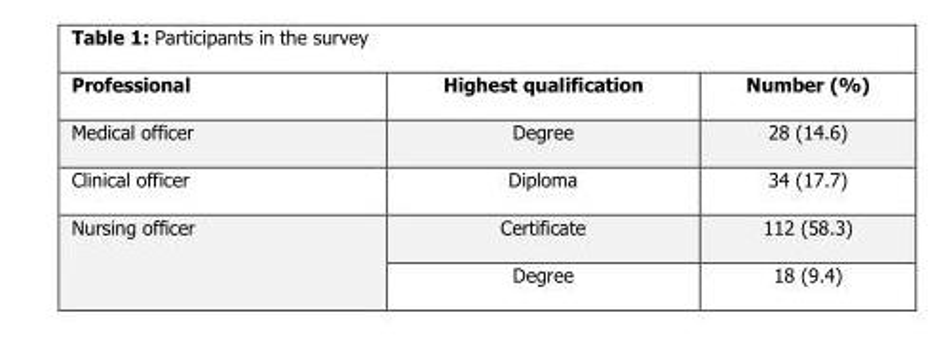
<table><thead><tr><td>Professional</td><td>Highest qualification</td><td>Number (%)</td></tr></thead><tbody><tr><td>Medical officer</td><td>Degree</td><td>28 (14.6)</td></tr><tr><td>Clinical officer</td><td>Diploma</td><td>34 (17.7)</td></tr><tr><td rowspan="2">Nursing officer</td><td>Certificate</td><td>112 (58.3)</td></tr><tr><td>Degree</td><td>18 (9.4)</td></tr></tbody></table>